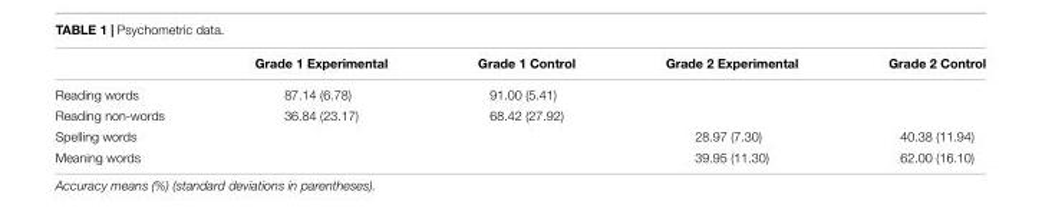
<table><thead><tr><td></td><td>Grade 1 Experimental</td><td>Grade 1 Control</td><td>Grade 2 Experimental</td><td>Grade 2 Control</td></tr></thead><tbody><tr><td>Reading words</td><td>87.14 (6.78)</td><td>91.00 (5.41)</td><td></td><td></td></tr><tr><td>Reading non-words</td><td>36.84 (23.17)</td><td>68.42 (27.92)</td><td></td><td></td></tr><tr><td>Spelling words</td><td></td><td></td><td>28.97 (7.30)</td><td>40.38 (11.94)</td></tr><tr><td>Meaning words</td><td></td><td></td><td>39.95 (11.30)</td><td>62.00 (16.10)</td></tr></tbody></table>